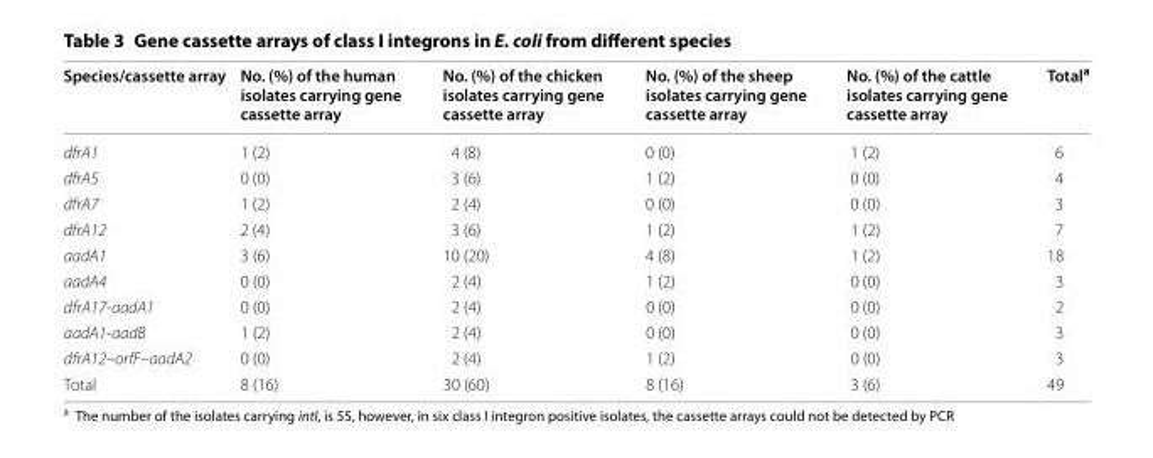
<table><thead><tr><td>Species/cassette array</td><td>No. (%) of the human isolates carrying gene cassette array</td><td>No. (%) of the chicken isolates carrying gene cassette array</td><td>No. (%) of the sheep isolates carrying gene cassette array</td><td>No. (%) of the cattle isolates carrying gene cassette array</td><td>Total<sup>a</sup></td></tr></thead><tbody><tr><td>dfrA1</td><td>1 (2)</td><td>4 (8)</td><td>0 (0)</td><td>1 (2)</td><td>6</td></tr><tr><td>dfrA5</td><td>0 (0)</td><td>3 (6)</td><td>1 (2)</td><td>0 (0)</td><td>4</td></tr><tr><td>dfrA7</td><td>1 (2)</td><td>2 (4)</td><td>0 (0)</td><td>0 (0)</td><td>3</td></tr><tr><td>dfrA12</td><td>2 (4)</td><td>3 (6)</td><td>1 (2)</td><td>1 (2)</td><td>7</td></tr><tr><td>aadA1</td><td>3 (6)</td><td>10 (20)</td><td>4 (8)</td><td>1 (2)</td><td>18</td></tr><tr><td>aadA4</td><td>0 (0)</td><td>2 (4)</td><td>1 (2)</td><td>0 (0)</td><td>3</td></tr><tr><td>dfrA17-aadA1</td><td>0 (0)</td><td>2 (4)</td><td>0 (0)</td><td>0 (0)</td><td>2</td></tr><tr><td>aadA1-aadB</td><td>1 (2)</td><td>2 (4)</td><td>0 (0)</td><td>0 (0)</td><td>3</td></tr><tr><td>dfrA12–orfF–aadA2</td><td>0 (0)</td><td>2 (4)</td><td>1 (2)</td><td>0 (0)</td><td>3</td></tr><tr><td>Total</td><td>8 (16)</td><td>30 (60)</td><td>8 (16)</td><td>3 (6)</td><td>49</td></tr></tbody></table>